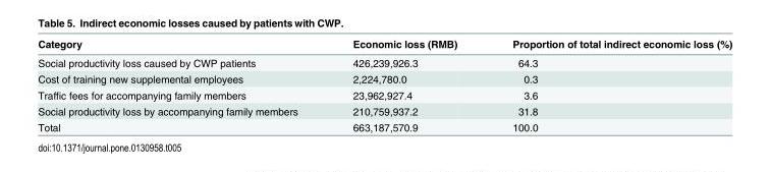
<table><thead><tr><td>Category</td><td>Economic loss (RMB)</td><td>Proportion of total indirect economic loss (%)</td></tr></thead><tbody><tr><td>Social productivity loss caused by CWP patients</td><td>426,239,926.3</td><td>64.3</td></tr><tr><td>Cost of training new supplemental employees</td><td>2,224,780.0</td><td>0.3</td></tr><tr><td>Traffic fees for accompanying family members</td><td>23,962,927.4</td><td>3.6</td></tr><tr><td>Social productivity loss by accompanying family members</td><td>210,759,937.2</td><td>31.8</td></tr><tr><td>Total</td><td>663,187,570.9</td><td>100.0</td></tr></tbody></table>